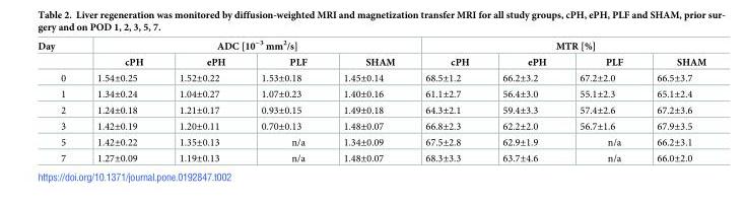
<table><thead><tr><td rowspan="2">Day</td><td colspan="4">ADC [10<sup>−3</sup> mm<sup>2</sup>/s]</td><td colspan="4">MTR [%]</td></tr><tr><td>cPH</td><td>ePH</td><td>PLF</td><td>SHAM</td><td>cPH</td><td>ePH</td><td>PLF</td><td>SHAM</td></tr></thead><tbody><tr><td>0</td><td>1.54±0.25</td><td>1.52±0.22</td><td>1.53±0.18</td><td>1.45±0.14</td><td>68.5±1.2</td><td>66.2±3.2</td><td>67.2±2.0</td><td>66.5±3.7</td></tr><tr><td>1</td><td>1.34±0.24</td><td>1.04±0.27</td><td>1.07±0.23</td><td>1.40±0.16</td><td>61.1±2.7</td><td>56.4±3.0</td><td>55.1±2.3</td><td>65.1±2.4</td></tr><tr><td>2</td><td>1.24±0.18</td><td>1.21±0.17</td><td>0.93±0.15</td><td>1.49±0.18</td><td>64.3±2.1</td><td>59.4±3.3</td><td>57.4±2.6</td><td>67.2±3.6</td></tr><tr><td>3</td><td>1.42±0.19</td><td>1.20±0.11</td><td>0.70±0.13</td><td>1.48±0.07</td><td>66.8±2.3</td><td>62.2±2.0</td><td>56.7±1.6</td><td>67.9±3.5</td></tr><tr><td>5</td><td>1.42±0.22</td><td>1.35±0.13</td><td>n/a</td><td>1.34±0.09</td><td>67.5±2.8</td><td>62.9±1.9</td><td>n/a</td><td>66.2±3.1</td></tr><tr><td>7</td><td>1.27±0.09</td><td>1.19±0.13</td><td>n/a</td><td>1.48±0.07</td><td>68.3±3.3</td><td>63.7±4.6</td><td>n/a</td><td>66.0±2.0</td></tr></tbody></table>